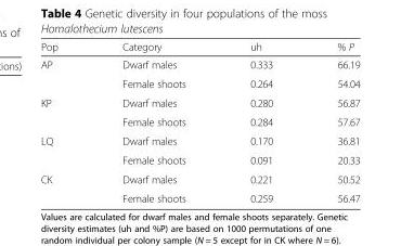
<table><thead><tr><td>Pop</td><td>Category</td><td>uh</td><td>% P</td></tr></thead><tbody><tr><td rowspan="2">AP</td><td>Dwarf males</td><td>0.333</td><td>66.19</td></tr><tr><td>Female shoots</td><td>0.264</td><td>54.04</td></tr><tr><td rowspan="2">KP</td><td>Dwarf males</td><td>0.280</td><td>56.87</td></tr><tr><td>Female shoots</td><td>0.284</td><td>57.67</td></tr><tr><td rowspan="2">LQ</td><td>Dwarf males</td><td>0.170</td><td>36.81</td></tr><tr><td>Female shoots</td><td>0.091</td><td>20.33</td></tr><tr><td rowspan="2">CK</td><td>Dwarf males</td><td>0.221</td><td>50.52</td></tr><tr><td>Female shoots</td><td>0.259</td><td>56.47</td></tr></tbody></table>